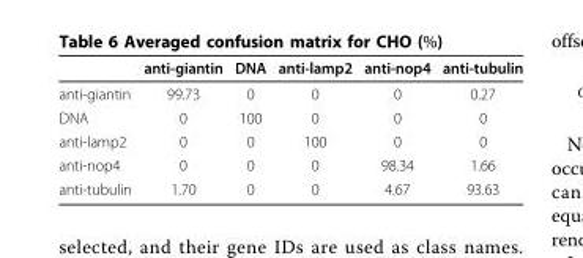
<table><thead><tr><td></td><td>anti-giantin</td><td>DNA</td><td>anti-lamp2</td><td>anti-nop4</td><td>anti-tubulin</td></tr></thead><tbody><tr><td>anti-giantin</td><td>99.73</td><td>0</td><td>0</td><td>0</td><td>0.27</td></tr><tr><td>DNA</td><td>0</td><td>100</td><td>0</td><td>0</td><td>0</td></tr><tr><td>anti-lamp2</td><td>0</td><td>0</td><td>100</td><td>0</td><td>0</td></tr><tr><td>anti-nop4</td><td>0</td><td>0</td><td>0</td><td>98.34</td><td>1.66</td></tr><tr><td>anti-tubulin</td><td>1.70</td><td>0</td><td>0</td><td>4.67</td><td>93.63</td></tr></tbody></table>